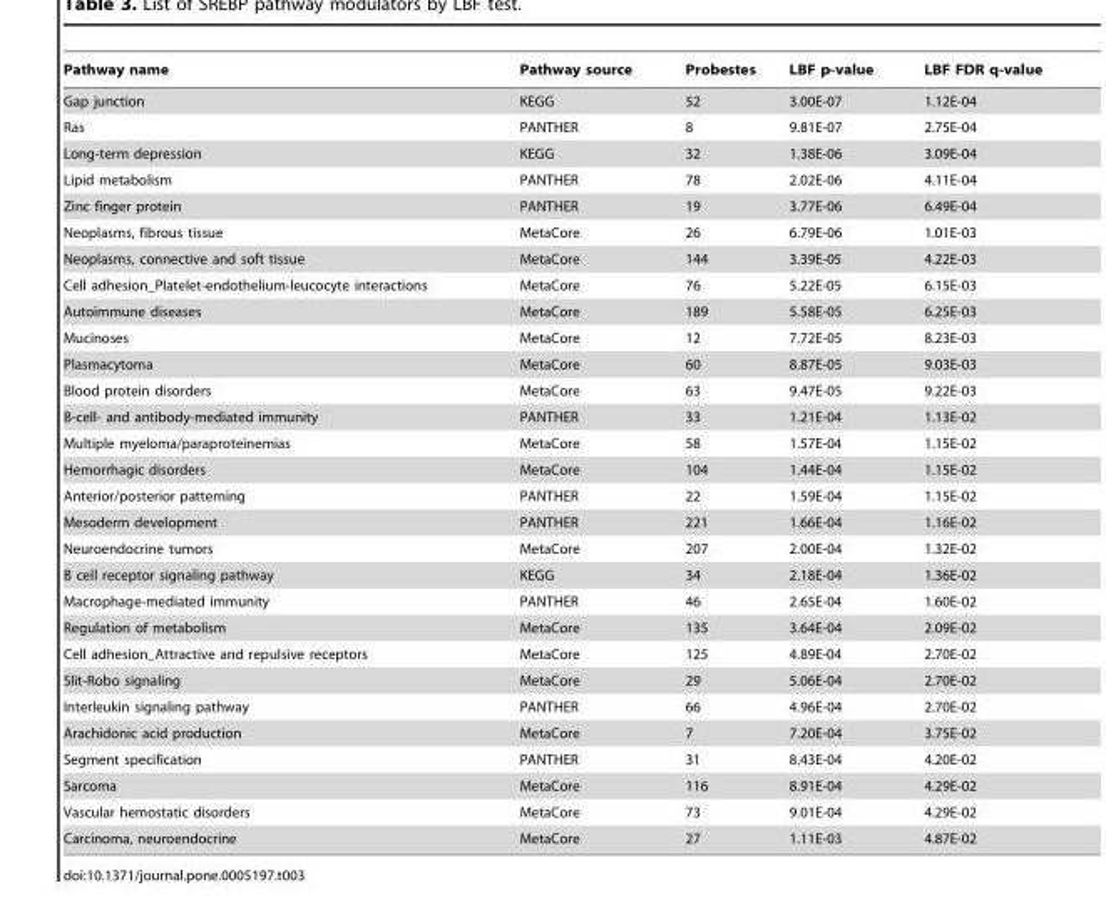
<table><thead><tr><td>Pathway name</td><td>Pathway source</td><td>Probestes</td><td>LBF p-value</td><td>LBF FDR q-value</td></tr></thead><tbody><tr><td>Gap junction</td><td>KEGG</td><td>52</td><td>3.00E-07</td><td>1.12E-04</td></tr><tr><td>Ras</td><td>PANTHER</td><td>8</td><td>9.81E-07</td><td>2.75E-04</td></tr><tr><td>Long-term depression</td><td>KEGG</td><td>32</td><td>1.38E-06</td><td>3.09E-04</td></tr><tr><td>Lipid metabolism</td><td>PANTHER</td><td>78</td><td>2.02E-06</td><td>4.11E-04</td></tr><tr><td>Zinc finger protein</td><td>PANTHER</td><td>19</td><td>3.77E-06</td><td>6.49E-04</td></tr><tr><td>Neoplasms, fibrous tissue</td><td>MetaCore</td><td>26</td><td>6.79E-06</td><td>1.01E-03</td></tr><tr><td>Neoplasms, connective and soft tissue</td><td>MetaCore</td><td>144</td><td>3.39E-05</td><td>4.22E-03</td></tr><tr><td>Cell adhesion_Platelet-endothelium-leucocyte interactions</td><td>MetaCore</td><td>76</td><td>5.22E-05</td><td>6.15E-03</td></tr><tr><td>Autoimmune diseases</td><td>MetaCore</td><td>189</td><td>5.58E-05</td><td>6.25E-03</td></tr><tr><td>Mucinoses</td><td>MetaCore</td><td>12</td><td>7.72E-05</td><td>8.23E-03</td></tr><tr><td>Plasmacytoma</td><td>MetaCore</td><td>60</td><td>8.87E-05</td><td>9.03E-03</td></tr><tr><td>Blood protein disorders</td><td>MetaCore</td><td>63</td><td>9.47E-05</td><td>9.22E-03</td></tr><tr><td>B-cell- and antibody-mediated immunity</td><td>PANTHER</td><td>33</td><td>1.21E-04</td><td>1.13E-02</td></tr><tr><td>Multiple myeloma/paraproteinemias</td><td>MetaCore</td><td>58</td><td>1.57E-04</td><td>1.15E-02</td></tr><tr><td>Hemorrhagic disorders</td><td>MetaCore</td><td>104</td><td>1.44E-04</td><td>1.15E-02</td></tr><tr><td>Anterior/posterior patterning</td><td>PANTHER</td><td>22</td><td>1.59E-04</td><td>1.15E-02</td></tr><tr><td>Mesoderm development</td><td>PANTHER</td><td>221</td><td>1.66E-04</td><td>1.16E-02</td></tr><tr><td>Neuroendocrine tumors</td><td>MetaCore</td><td>207</td><td>2.00E-04</td><td>1.32E-02</td></tr><tr><td>B cell receptor signaling pathway</td><td>KEGG</td><td>34</td><td>2.18E-04</td><td>1.36E-02</td></tr><tr><td>Macrophage-mediated immunity</td><td>PANTHER</td><td>46</td><td>2.65E-04</td><td>1.60E-02</td></tr><tr><td>Regulation of metabolism</td><td>MetaCore</td><td>135</td><td>3.64E-04</td><td>2.09E-02</td></tr><tr><td>Cell adhesion_Attractive and repulsive receptors</td><td>MetaCore</td><td>125</td><td>4.89E-04</td><td>2.70E-02</td></tr><tr><td>Slit-Robo signaling</td><td>MetaCore</td><td>29</td><td>5.06E-04</td><td>2.70E-02</td></tr><tr><td>Interleukin signaling pathway</td><td>PANTHER</td><td>66</td><td>4.96E-04</td><td>2.70E-02</td></tr><tr><td>Arachidonic acid production</td><td>MetaCore</td><td>7</td><td>7.20E-04</td><td>3.75E-02</td></tr><tr><td>Segment specification</td><td>PANTHER</td><td>31</td><td>8.43E-04</td><td>4.20E-02</td></tr><tr><td>Sarcoma</td><td>MetaCore</td><td>116</td><td>8.91E-04</td><td>4.29E-02</td></tr><tr><td>Vascular hemostatic disorders</td><td>MetaCore</td><td>73</td><td>9.01E-04</td><td>4.29E-02</td></tr><tr><td>Carcinoma, neuroendocrine</td><td>MetaCore</td><td>27</td><td>1.11E-03</td><td>4.87E-02</td></tr></tbody></table>